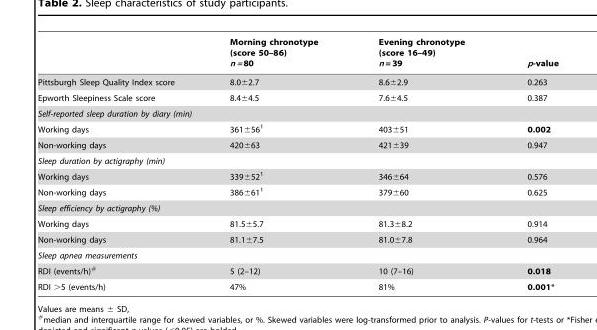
<table><thead><tr><td></td><td>Morning chronotype (score 50–86) n = 80</td><td>Evening chronotype (score 16–49) n = 39</td><td>p-value</td></tr></thead><tbody><tr><td>Pittsburgh Sleep Quality Index score</td><td>8.0±2.7</td><td>8.6±2.9</td><td>0.263</td></tr><tr><td>Epworth Sleepiness Scale score</td><td>8.4±4.5</td><td>7.6±4.5</td><td>0.387</td></tr><tr><td colspan="4">Self-reported sleep duration by diary (min)</td></tr><tr><td>Working days</td><td>361±56<sup>1</sup></td><td>403±51</td><td>0.002</td></tr><tr><td>Non-working days</td><td>420±63</td><td>421±39</td><td>0.947</td></tr><tr><td colspan="4">Sleep duration by actigraphy (min)</td></tr><tr><td>Working days</td><td>339±52<sup>1</sup></td><td>346±64</td><td>0.576</td></tr><tr><td>Non-working days</td><td>386±61<sup>1</sup></td><td>379±60</td><td>0.625</td></tr><tr><td colspan="4">Sleep efficiency by actigraphy (%)</td></tr><tr><td>Working days</td><td>81.5±5.7</td><td>81.3±8.2</td><td>0.914</td></tr><tr><td>Non-working days</td><td>81.1±7.5</td><td>81.0±7.8</td><td>0.964</td></tr><tr><td colspan="4">Sleep apnea measurements</td></tr><tr><td>RDI (events/h)#</td><td>5 (2–12)</td><td>10 (7–16)</td><td>0.018</td></tr><tr><td>RDI &gt;5 (events/h)</td><td>47%</td><td>81%</td><td>0.001*</td></tr></tbody></table>